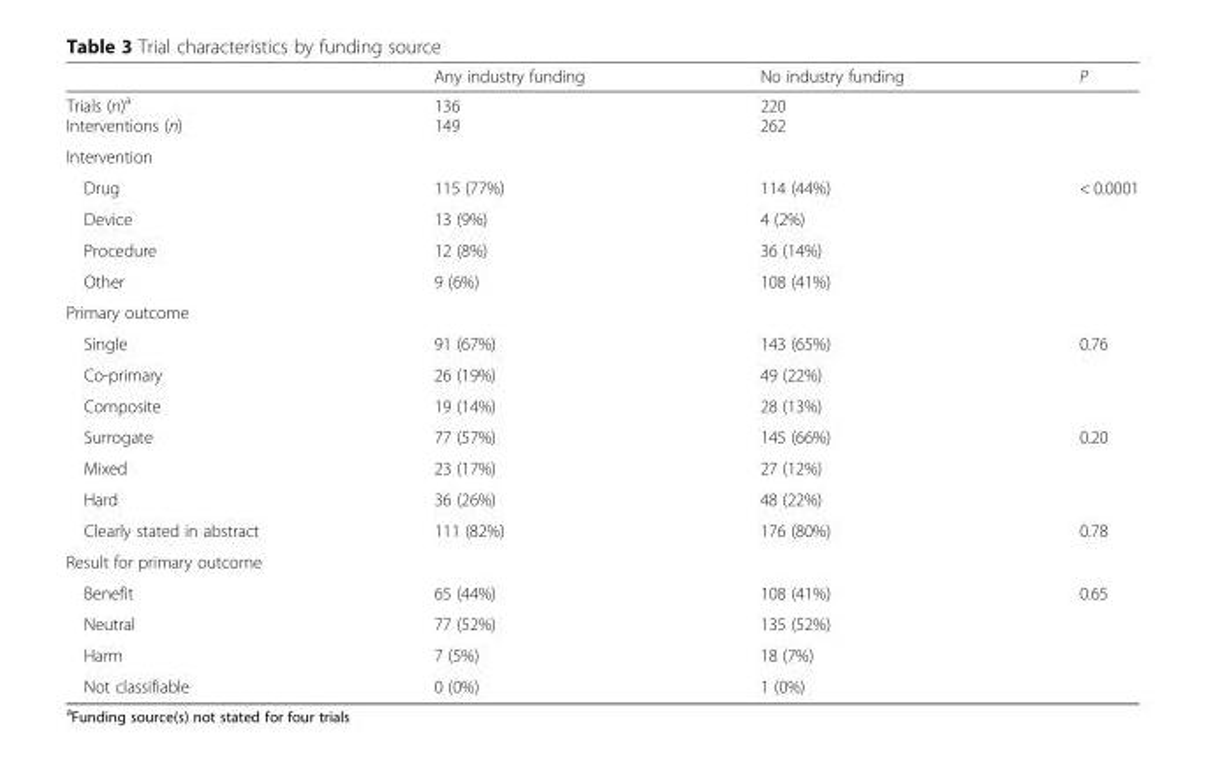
<table><thead><tr><td></td><td>Any industry funding</td><td>No industry funding</td><td>P</td></tr></thead><tbody><tr><td>Trials (n)<sup>a</sup> Interventions (n)</td><td>136 149</td><td>220 262</td><td></td></tr><tr><td colspan="4">Intervention</td></tr><tr><td>Drug</td><td>115 (77%)</td><td>114 (44%)</td><td rowspan="4">&lt; 0.0001</td></tr><tr><td>Device</td><td>13 (9%)</td><td>4 (2%)</td></tr><tr><td>Procedure</td><td>12 (8%)</td><td>36 (14%)</td></tr><tr><td>Other</td><td>9 (6%)</td><td>108 (41%)</td></tr><tr><td colspan="4">Primary outcome</td></tr><tr><td>Single</td><td>91 (67%)</td><td>143 (65%)</td><td rowspan="3">0.76</td></tr><tr><td>Co-primary</td><td>26 (19%)</td><td>49 (22%)</td></tr><tr><td>Composite</td><td>19 (14%)</td><td>28 (13%)</td></tr><tr><td>Surrogate</td><td>77 (57%)</td><td>145 (66%)</td><td rowspan="3">0.20</td></tr><tr><td>Mixed</td><td>23 (17%)</td><td>27 (12%)</td></tr><tr><td>Hard</td><td>36 (26%)</td><td>48 (22%)</td></tr><tr><td>Clearly stated in abstract</td><td>111 (82%)</td><td>176 (80%)</td><td>0.78</td></tr><tr><td colspan="4">Result for primary outcome</td></tr><tr><td>Benefit</td><td>65 (44%)</td><td>108 (41%)</td><td rowspan="4">0.65</td></tr><tr><td>Neutral</td><td>77 (52%)</td><td>135 (52%)</td></tr><tr><td>Harm</td><td>7 (5%)</td><td>18 (7%)</td></tr><tr><td>Not classifiable</td><td>0 (0%)</td><td>1 (0%)</td></tr></tbody></table>